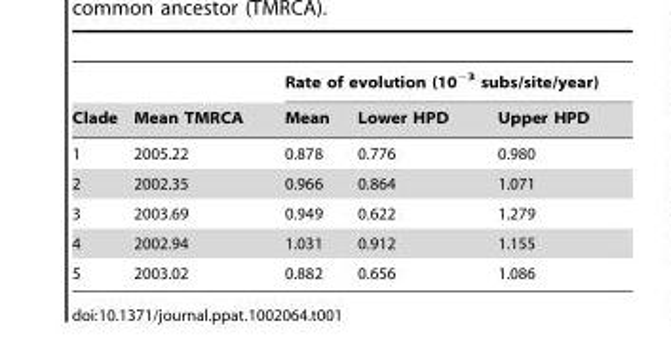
<table><thead><tr><td rowspan="2">Clade</td><td rowspan="2">Mean TMRCA</td><td colspan="3">Rate of evolution (10<sup>−3</sup> subs/site/year)</td></tr><tr><td>Mean</td><td>Lower HPD</td><td>Upper HPD</td></tr></thead><tbody><tr><td>1</td><td>2005.22</td><td>0.878</td><td>0.776</td><td>0.980</td></tr><tr><td>2</td><td>2002.35</td><td>0.966</td><td>0.864</td><td>1.071</td></tr><tr><td>3</td><td>2003.69</td><td>0.949</td><td>0.622</td><td>1.279</td></tr><tr><td>4</td><td>2002.94</td><td>1.031</td><td>0.912</td><td>1.155</td></tr><tr><td>5</td><td>2003.02</td><td>0.882</td><td>0.656</td><td>1.086</td></tr></tbody></table>